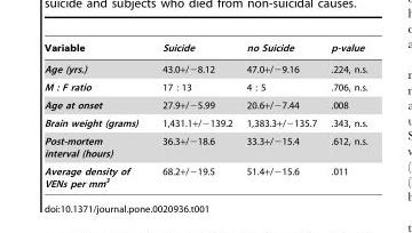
<table><thead><tr><td>Variable</td><td>Suicide</td><td>no Suicide</td><td>p-value</td></tr></thead><tbody><tr><td>Age (yrs.)</td><td>43.0+/−8.12</td><td>47.0+/−9.16</td><td>.224, n.s.</td></tr><tr><td>M : F ratio</td><td>17 : 13</td><td>4 : 5</td><td>.706, n.s.</td></tr><tr><td>Age at onset</td><td>27.9+/−5.99</td><td>20.6+/−7.44</td><td>.008</td></tr><tr><td>Brain weight (grams)</td><td>1,431.1+/−139.2</td><td>1,383.3+/−135.7</td><td>.343, n.s.</td></tr><tr><td>Post-mortem interval (hours)</td><td>36.3+/−18.6</td><td>33.3+/−15.4</td><td>.612, n.s.</td></tr><tr><td>Average density of VENs per mm<sup>3</sup></td><td>68.2+/−19.5</td><td>51.4+/−15.6</td><td>.011</td></tr></tbody></table>